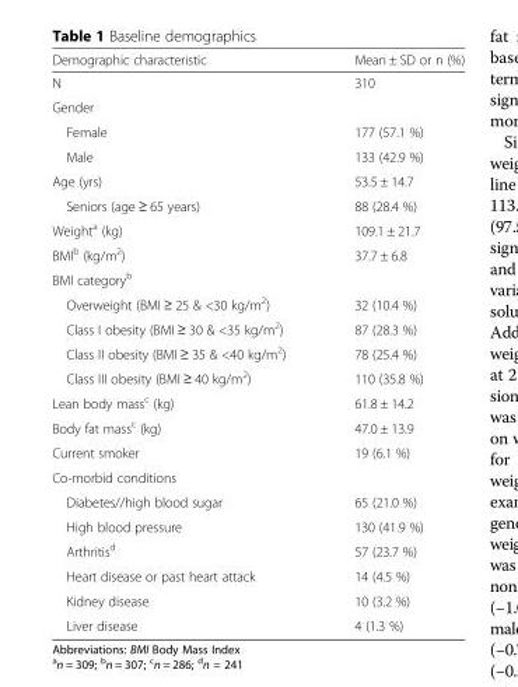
<table><thead><tr><td>Demographic characteristic</td><td>Mean ± SD or n (%)</td></tr></thead><tbody><tr><td>N</td><td>310</td></tr><tr><td colspan="2">Gender</td></tr><tr><td>Female</td><td>177 (57.1 %)</td></tr><tr><td>Male</td><td>133 (42.9 %)</td></tr><tr><td>Age (yrs)</td><td>53.5 ± 14.7</td></tr><tr><td>Seniors (age ≥ 65 years)</td><td>88 (28.4 %)</td></tr><tr><td>Weight<sup>a</sup> (kg)</td><td>109.1 ± 21.7</td></tr><tr><td>BMI<sup>b</sup> (kg/m<sup>2</sup>)</td><td>37.7 ± 6.8</td></tr><tr><td colspan="2">BMI category<sup>b</sup></td></tr><tr><td>Overweight (BMI ≥ 25 &amp; &lt;30 kg/m<sup>2</sup>)</td><td>32 (10.4 %)</td></tr><tr><td>Class I obesity (BMI ≥ 30 &amp; &lt;35 kg/m<sup>2</sup>)</td><td>87 (28.3 %)</td></tr><tr><td>Class II obesity (BMI ≥ 35 &amp; &lt;40 kg/m<sup>2</sup>)</td><td>78 (25.4 %)</td></tr><tr><td>Class III obesity (BMI ≥ 40 kg/m<sup>2</sup>)</td><td>110 (35.8 %)</td></tr><tr><td>Lean body mass<sup>c</sup> (kg)</td><td>61.8 ± 14.2</td></tr><tr><td>Body fat mass<sup>c</sup> (kg)</td><td>47.0 ± 13.9</td></tr><tr><td>Current smoker</td><td>19 (6.1 %)</td></tr><tr><td colspan="2">Co-morbid conditions</td></tr><tr><td>Diabetes//high blood sugar</td><td>65 (21.0 %)</td></tr><tr><td>High blood pressure</td><td>130 (41.9 %)</td></tr><tr><td>Arthritis<sup>d</sup></td><td>57 (23.7 %)</td></tr><tr><td>Heart disease or past heart attack</td><td>14 (4.5 %)</td></tr><tr><td>Kidney disease</td><td>10 (3.2 %)</td></tr><tr><td>Liver disease</td><td>4 (1.3 %)</td></tr></tbody></table>